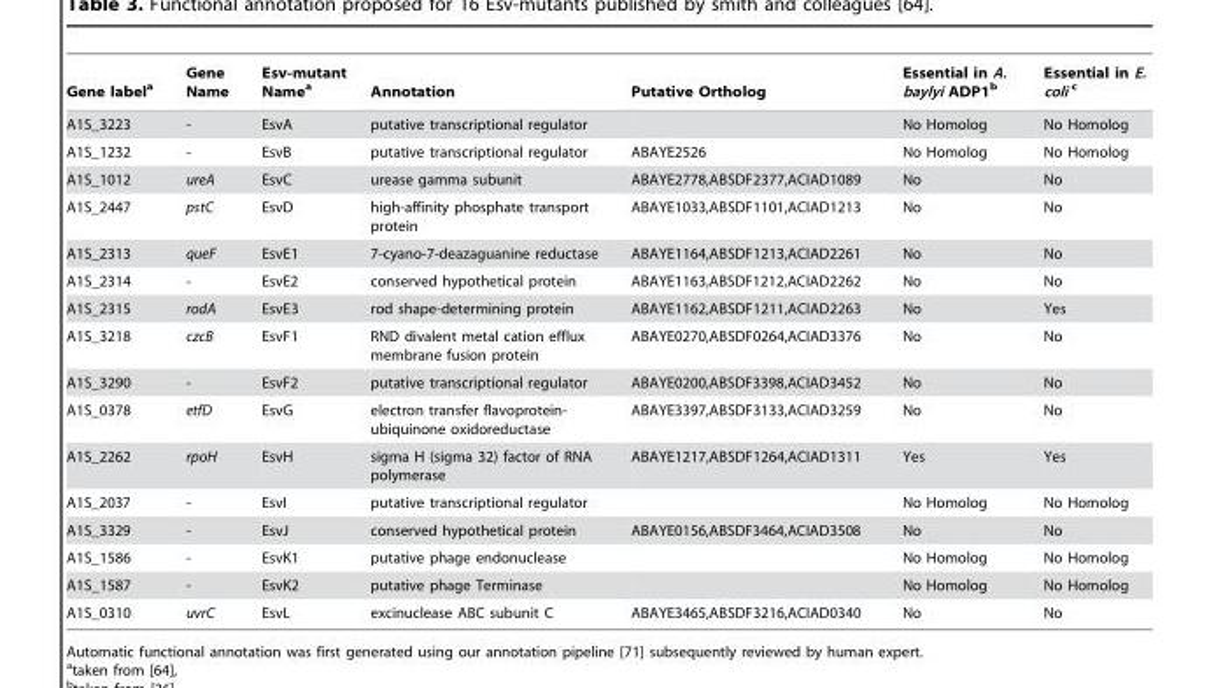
<table><thead><tr><td>Gene label<sup>a</sup></td><td>Gene Name</td><td>Esv-mutant Name<sup>a</sup></td><td>Annotation</td><td>Putative Ortholog</td><td>Essential in A. baylyi ADP1<sup>b</sup></td><td>Essential in E. coli c</td></tr></thead><tbody><tr><td>A1S_3223</td><td>-</td><td>EsvA</td><td>putative transcriptional regulator</td><td></td><td>No Homolog</td><td>No Homolog</td></tr><tr><td>A1S_1232</td><td>-</td><td>EsvB</td><td>putative transcriptional regulator</td><td>ABAYE2526</td><td>No Homolog</td><td>No Homolog</td></tr><tr><td>A1S_1012</td><td>ureA</td><td>EsvC</td><td>urease gamma subunit</td><td>ABAYE2778,ABSDF2377,ACIAD1089</td><td>No</td><td>No</td></tr><tr><td>A1S_2447</td><td>pstC</td><td>EsvD</td><td>high-affinity phosphate transport protein</td><td>ABAYE1033,ABSDF1101,ACIAD1213</td><td>No</td><td>No</td></tr><tr><td>A1S_2313</td><td>queF</td><td>EsvE1</td><td>7-cyano-7-deazaguanine reductase</td><td>ABAYE1164,ABSDF1213,ACIAD2261</td><td>No</td><td>No</td></tr><tr><td>A1S_2314</td><td>-</td><td>EsvE2</td><td>conserved hypothetical protein</td><td>ABAYE1163,ABSDF1212,ACIAD2262</td><td>No</td><td>No</td></tr><tr><td>A1S_2315</td><td>rodA</td><td>EsvE3</td><td>rod shape-determining protein</td><td>ABAYE1162,ABSDF1211,ACIAD2263</td><td>No</td><td>Yes</td></tr><tr><td>A1S_3218</td><td>czcB</td><td>EsvF1</td><td>RND divalent metal cation efflux membrane fusion protein</td><td>ABAYE0270,ABSDF0264,ACIAD3376</td><td>No</td><td>No</td></tr><tr><td>A1S_3290</td><td>-</td><td>EsvF2</td><td>putative transcriptional regulator</td><td>ABAYE0200,ABSDF3398,ACIAD3452</td><td>No</td><td>No</td></tr><tr><td>A1S_0378</td><td>etfD</td><td>EsvG</td><td>electron transfer flavoprotein- ubiquinone oxidoreductase</td><td>ABAYE3397,ABSDF3133,ACIAD3259</td><td>No</td><td>No</td></tr><tr><td>A1S_2262</td><td>rpoH</td><td>EsvH</td><td>sigma H (sigma 32) factor of RNA polymerase</td><td>ABAYE1217,ABSDF1264,ACIAD1311</td><td>Yes</td><td>Yes</td></tr><tr><td>A1S_2037</td><td>-</td><td>EsvI</td><td>putative transcriptional regulator</td><td></td><td>No Homolog</td><td>No Homolog</td></tr><tr><td>A1S_3329</td><td>-</td><td>EsvJ</td><td>conserved hypothetical protein</td><td>ABAYE0156,ABSDF3464,ACIAD3508</td><td>No</td><td>No</td></tr><tr><td>A1S_1586</td><td>-</td><td>EsvK1</td><td>putative phage endonuclease</td><td></td><td>No Homolog</td><td>No Homolog</td></tr><tr><td>A1S_1587</td><td>-</td><td>EsvK2</td><td>putative phage Terminase</td><td></td><td>No Homolog</td><td>No Homolog</td></tr><tr><td>A1S_0310</td><td>uvrC</td><td>EsvL</td><td>excinuclease ABC subunit C</td><td>ABAYE3465,ABSDF3216,ACIAD0340</td><td>No</td><td>No</td></tr></tbody></table>